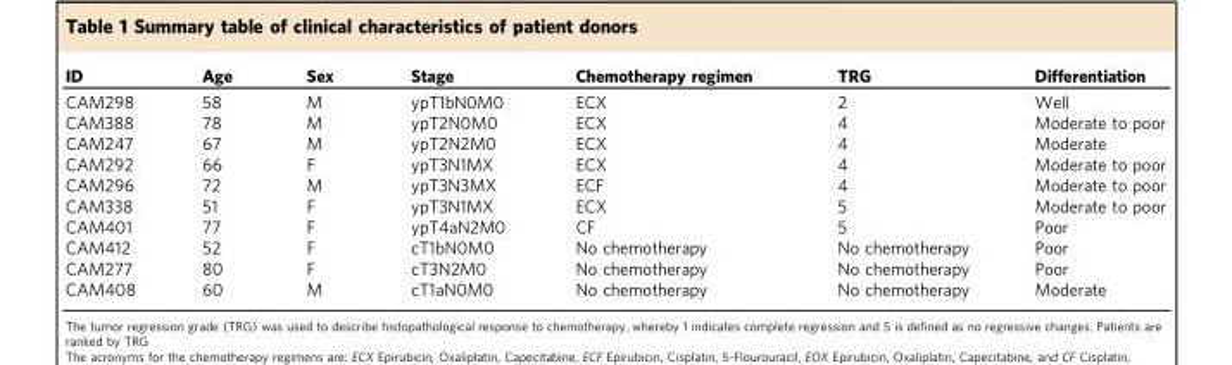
<table><thead><tr><td>ID</td><td>Age</td><td>Sex</td><td>Stage</td><td>Chemotherapy regimen</td><td>TRG</td><td>Differentiation</td></tr></thead><tbody><tr><td>CAM298</td><td>58</td><td>M</td><td>ypT1bN0M0</td><td>ECX</td><td>2</td><td>Well</td></tr><tr><td>CAM388</td><td>78</td><td>M</td><td>ypT2N0M0</td><td>ECX</td><td>4</td><td>Moderate to poor</td></tr><tr><td>CAM247</td><td>67</td><td>M</td><td>ypT2N2M0</td><td>ECX</td><td>4</td><td>Moderate</td></tr><tr><td>CAM292</td><td>66</td><td>F</td><td>ypT3N1MX</td><td>ECX</td><td>4</td><td>Moderate to poor</td></tr><tr><td>CAM296</td><td>72</td><td>M</td><td>ypT3N3MX</td><td>ECF</td><td>4</td><td>Moderate to poor</td></tr><tr><td>CAM338</td><td>51</td><td>F</td><td>ypT3N1MX</td><td>ECX</td><td>5</td><td>Moderate to poor</td></tr><tr><td>CAM401</td><td>77</td><td>F</td><td>ypT4aN2M0</td><td>CF</td><td>5</td><td>Poor</td></tr><tr><td>CAM412</td><td>52</td><td>F</td><td>cT1bN0M0</td><td>No chemotherapy</td><td>No chemotherapy</td><td>Poor</td></tr><tr><td>CAM277</td><td>80</td><td>F</td><td>cT3N2M0</td><td>No chemotherapy</td><td>No chemotherapy</td><td>Poor</td></tr><tr><td>CAM408</td><td>60</td><td>M</td><td>cT1aN0M0</td><td>No chemotherapy</td><td>No chemotherapy</td><td>Moderate</td></tr></tbody></table>